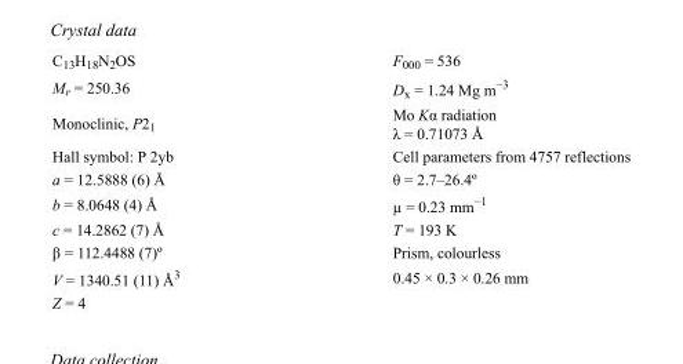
<table><tbody><tr><td>C<sub>13</sub>H<sub>18</sub>N<sub>2</sub>OS</td><td>F000 = 536</td></tr><tr><td>M<sub>r</sub> = 250.36</td><td>D<sub>x</sub> = 1.24 Mg m<sup>−3</sup></td></tr><tr><td>Monoclinic, P2<sub>1</sub></td><td>Mo Kα radiation λ = 0.71073 Å</td></tr><tr><td>Hall symbol: P 2yb</td><td>Cell parameters from 4757 reflections</td></tr><tr><td>a = 12.5888 (6) Å</td><td>θ = 2.7–26.4º</td></tr><tr><td>b = 8.0648 (4) Å</td><td>µ = 0.23 mm<sup>−1</sup></td></tr><tr><td>c = 14.2862 (7) Å</td><td>T = 193 K</td></tr><tr><td>β = 112.4488 (7)º</td><td>Prism, colourless</td></tr><tr><td>V = 1340.51 (11) Å<sup>3</sup></td><td>0.45 × 0.3 × 0.26 mm</td></tr><tr><td>Z = 4</td><td></td></tr></tbody></table>